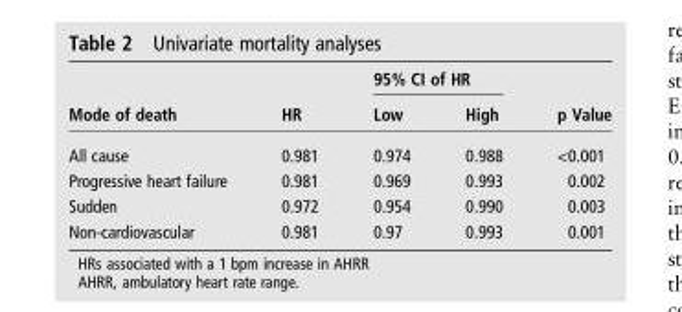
<table><thead><tr><td rowspan="2">Mode of death</td><td rowspan="2">HR</td><td colspan="2">95% CI of HR</td><td rowspan="2">p Value</td></tr><tr><td>Low</td><td>High</td></tr></thead><tbody><tr><td>All cause</td><td>0.981</td><td>0.974</td><td>0.988</td><td>&lt;0.001</td></tr><tr><td>Progressive heart failure</td><td>0.981</td><td>0.969</td><td>0.993</td><td>0.002</td></tr><tr><td>Sudden</td><td>0.972</td><td>0.954</td><td>0.990</td><td>0.003</td></tr><tr><td>Non-cardiovascular</td><td>0.981</td><td>0.97</td><td>0.993</td><td>0.001</td></tr></tbody></table>